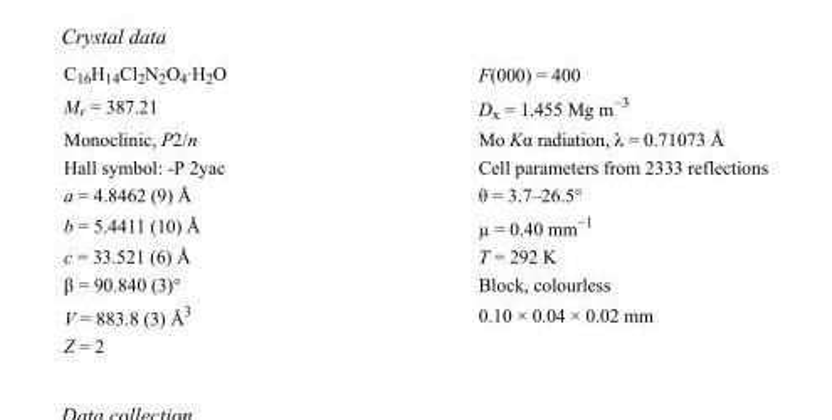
<table><tbody><tr><td>C<sub>16</sub>H<sub>14</sub>Cl<sub>2</sub>N<sub>2</sub>O<sub>4</sub>·H<sub>2</sub>O</td><td>F(000) = 400</td></tr><tr><td>M<sub>r</sub> = 387.21</td><td>D<sub>x</sub> = 1.455 Mg m<sup>−3</sup></td></tr><tr><td>Monoclinic, P2/n</td><td>Mo Kα radiation, λ = 0.71073 Å</td></tr><tr><td>Hall symbol: -P 2yac</td><td>Cell parameters from 2333 reflections</td></tr><tr><td>a = 4.8462 (9) Å</td><td>θ = 3.7–26.5°</td></tr><tr><td>b = 5.4411 (10) Å</td><td>µ = 0.40 mm<sup>−1</sup></td></tr><tr><td>c = 33.521 (6) Å</td><td>T = 292 K</td></tr><tr><td>β = 90.840 (3)°</td><td>Block, colourless</td></tr><tr><td>V = 883.8 (3) Å<sup>3</sup></td><td>0.10 × 0.04 × 0.02 mm</td></tr><tr><td>Z = 2</td><td></td></tr></tbody></table>